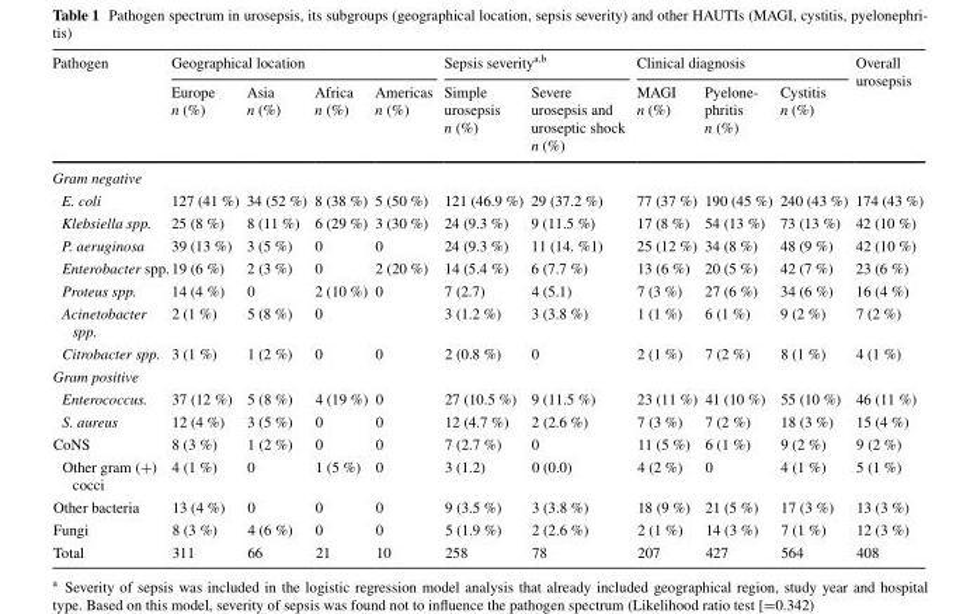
<table><thead><tr><td rowspan="2">Pathogen</td><td colspan="4">Geographical location</td><td colspan="2">Sepsis severity<sup>a,b</sup></td><td colspan="3">Clinical diagnosis</td><td rowspan="2">Overall urosepsis</td></tr><tr><td>Europe n (%)</td><td>Asia n (%)</td><td>Africa n (%)</td><td>Americas n (%)</td><td>Simple urosepsis n (%)</td><td>Severe urosepsis and uroseptic shock n (%)</td><td>MAGI n (%)</td><td>Pyelone- phritis n (%)</td><td>Cystitis n (%)</td></tr></thead><tbody><tr><td colspan="11">Gram negative</td></tr><tr><td>E. coli</td><td>127 (41 %)</td><td>34 (52 %)</td><td>8 (38 %)</td><td>5 (50 %)</td><td>121 (46.9 %)</td><td>29 (37.2 %)</td><td>77 (37 %)</td><td>190 (45 %)</td><td>240 (43 %)</td><td>174 (43 %)</td></tr><tr><td>Klebsiella spp.</td><td>25 (8 %)</td><td>8 (11 %)</td><td>6 (29 %)</td><td>3 (30 %)</td><td>24 (9.3 %)</td><td>9 (11.5 %)</td><td>17 (8 %)</td><td>54 (13 %)</td><td>73 (13 %)</td><td>42 (10 %)</td></tr><tr><td>P. aeruginosa</td><td>39 (13 %)</td><td>3 (5 %)</td><td>0</td><td>0</td><td>24 (9.3 %)</td><td>11 (14. %1)</td><td>25 (12 %)</td><td>34 (8 %)</td><td>48 (9 %)</td><td>42 (10 %)</td></tr><tr><td>Enterobacter spp.</td><td>19 (6 %)</td><td>2 (3 %)</td><td>0</td><td>2 (20 %)</td><td>14 (5.4 %)</td><td>6 (7.7 %)</td><td>13 (6 %)</td><td>20 (5 %)</td><td>42 (7 %)</td><td>23 (6 %)</td></tr><tr><td>Proteus spp.</td><td>14 (4 %)</td><td>0</td><td>2 (10 %)</td><td>0</td><td>7 (2.7)</td><td>4 (5.1)</td><td>7 (3 %)</td><td>27 (6 %)</td><td>34 (6 %)</td><td>16 (4 %)</td></tr><tr><td>Acinetobacter spp.</td><td>2 (1 %)</td><td>5 (8 %)</td><td>0</td><td></td><td>3 (1.2 %)</td><td>3 (3.8 %)</td><td>1 (1 %)</td><td>6 (1 %)</td><td>9 (2 %)</td><td>7 (2 %)</td></tr><tr><td>Citrobacter spp.</td><td>3 (1 %)</td><td>1 (2 %)</td><td>0</td><td>0</td><td>2 (0.8 %)</td><td>0</td><td>2 (1 %)</td><td>7 (2 %)</td><td>8 (1 %)</td><td>4 (1 %)</td></tr><tr><td colspan="11">Gram positive</td></tr><tr><td>Enterococcus.</td><td>37 (12 %)</td><td>5 (8 %)</td><td>4 (19 %)</td><td>0</td><td>27 (10.5 %)</td><td>9 (11.5 %)</td><td>23 (11 %)</td><td>41 (10 %)</td><td>55 (10 %)</td><td>46 (11 %)</td></tr><tr><td>S. aureus</td><td>12 (4 %)</td><td>3 (5 %)</td><td>0</td><td>0</td><td>12 (4.7 %)</td><td>2 (2.6 %)</td><td>7 (3 %)</td><td>7 (2 %)</td><td>18 (3 %)</td><td>15 (4 %)</td></tr><tr><td>CoNS</td><td>8 (3 %)</td><td>1 (2 %)</td><td>0</td><td>0</td><td>7 (2.7 %)</td><td>0</td><td>11 (5 %)</td><td>6 (1 %)</td><td>9 (2 %)</td><td>9 (2 %)</td></tr><tr><td>Other gram (+) cocci</td><td>4 (1 %)</td><td>0</td><td>1 (5 %)</td><td>0</td><td>3 (1.2)</td><td>0 (0.0)</td><td>4 (2 %)</td><td>0</td><td>4 (1 %)</td><td>5 (1 %)</td></tr><tr><td>Other bacteria</td><td>13 (4 %)</td><td>0</td><td>0</td><td>0</td><td>9 (3.5 %)</td><td>3 (3.8 %)</td><td>18 (9 %)</td><td>21 (5 %)</td><td>17 (3 %)</td><td>13 (3 %)</td></tr><tr><td>Fungi</td><td>8 (3 %)</td><td>4 (6 %)</td><td>0</td><td>0</td><td>5 (1.9 %)</td><td>2 (2.6 %)</td><td>2 (1 %)</td><td>14 (3 %)</td><td>7 (1 %)</td><td>12 (3 %)</td></tr><tr><td>Total</td><td>311</td><td>66</td><td>21</td><td>10</td><td>258</td><td>78</td><td>207</td><td>427</td><td>564</td><td>408</td></tr></tbody></table>